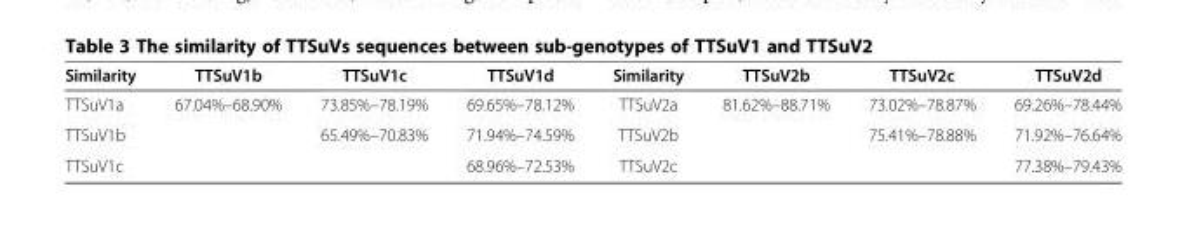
<table><thead><tr><td>Similarity</td><td>TTSuV1b</td><td>TTSuV1c</td><td>TTSuV1d</td><td>Similarity</td><td>TTSuV2b</td><td>TTSuV2c</td><td>TTSuV2d</td></tr></thead><tbody><tr><td>TTSuV1a</td><td>67.04%–68.90%</td><td>73.85%–78.19%</td><td>69.65%–78.12%</td><td>TTSuV2a</td><td>81.62%–88.71%</td><td>73.02%–78.87%</td><td>69.26%–78.44%</td></tr><tr><td>TTSuV1b</td><td></td><td>65.49%–70.83%</td><td>71.94%–74.59%</td><td>TTSuV2b</td><td></td><td>75.41%–78.88%</td><td>71.92%–76.64%</td></tr><tr><td>TTSuV1c</td><td></td><td></td><td>68.96%–72.53%</td><td>TTSuV2c</td><td></td><td></td><td>77.38%–79.43%</td></tr></tbody></table>